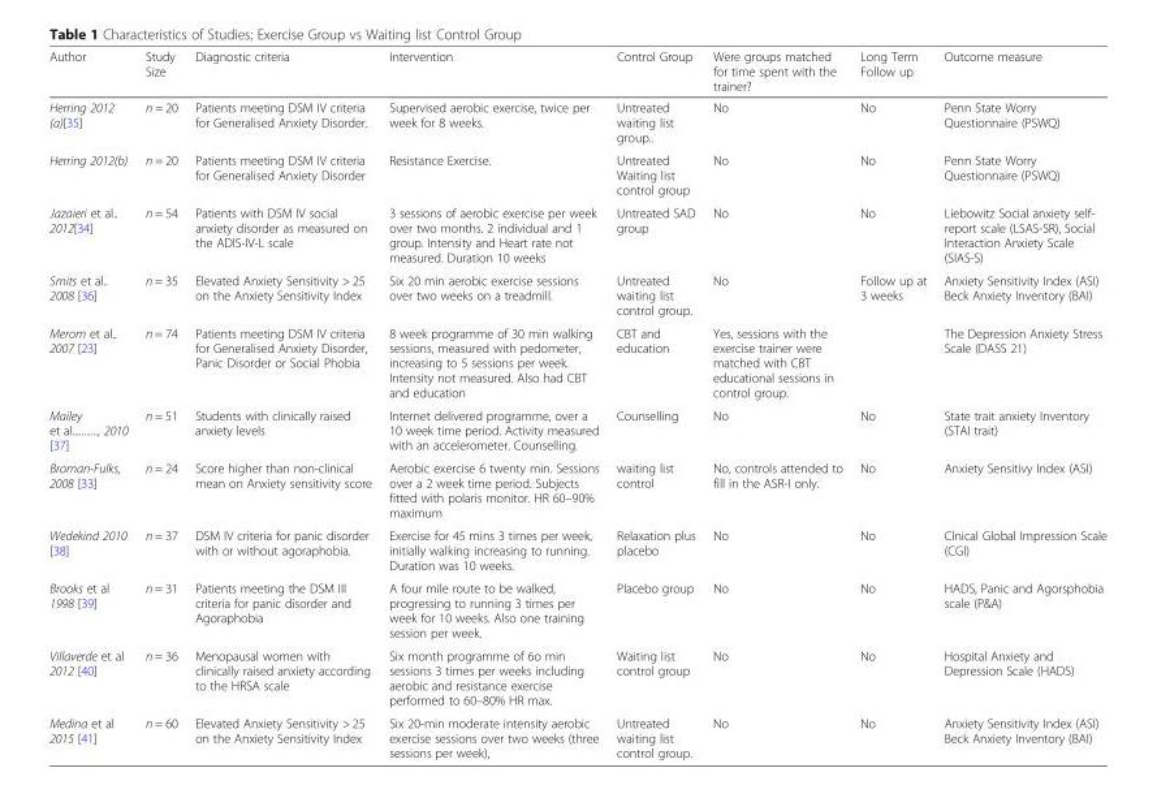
<table><thead><tr><td>Author</td><td>Study Size</td><td>Diagnostic criteria</td><td>Intervention</td><td>Control Group</td><td>Were groups matched for time spent with the trainer?</td><td>Long Term Follow up</td><td>Outcome measure</td></tr></thead><tbody><tr><td>Herring 2012 (a)[35]</td><td>n = 20</td><td>Patients meeting DSM IV criteria for Generalised Anxiety Disorder.</td><td>Supervised aerobic exercise, twice per week for 8 weeks.</td><td>Untreated waiting list group..</td><td>No</td><td>No</td><td>Penn State Worry Questionnaire (PSWQ)</td></tr><tr><td>Herring 2012(b)</td><td>n = 20</td><td>Patients meeting DSM IV criteria for Generalised Anxiety Disorder</td><td>Resistance Exercise.</td><td>Untreated Waiting list control group</td><td>No</td><td>No</td><td>Penn State Worry Questionnaire (PSWQ)</td></tr><tr><td>Jazaieri et al.. 2012[34]</td><td>n = 54</td><td>Patients with DSM IV social anxiety disorder as measured on the ADIS-IV-L scale</td><td>3 sessions of aerobic exercise per week over two months. 2 individual and 1 group. Intensity and Heart rate not measured. Duration 10 weeks</td><td>Untreated SAD group</td><td>No</td><td>No</td><td>Liebowitz Social anxiety self- report scale (LSAS-SR), Social Interaction Anxiety Scale (SIAS-S)</td></tr><tr><td>Smits et al.. 2008 [36]</td><td>n = 35</td><td>Elevated Anxiety Sensitivity &gt; 25 on the Anxiety Sensitivity Index</td><td>Six 20 min aerobic exercise sessions over two weeks on a treadmill.</td><td>Untreated waiting list control group.</td><td>No</td><td>Follow up at 3 weeks</td><td>Anxiety Sensitivity Index (ASI) Beck Anxiety Inventory (BAI)</td></tr><tr><td>Merom et al.. 2007 [23]</td><td>n = 74</td><td>Patients meeting DSM IV criteria for Generalised Anxiety Disorder, Panic Disorder or Social Phobia</td><td>8 week programme of 30 min walking sessions, measured with pedometer, increasing to 5 sessions per week. Intensity not measured. Also had CBT and education</td><td>CBT and education</td><td>Yes, sessions with the exercise trainer were matched with CBT educational sessions in control group.</td><td></td><td>The Depression Anxiety Stress Scale (DASS 21)</td></tr><tr><td>Mailey et al..........., 2010 [37]</td><td>n = 51</td><td>Students with clinically raised anxiety levels</td><td>Internet delivered programme, over a 10 week time period. Activity measured with an accelerometer. Counselling.</td><td>Counselling</td><td>No</td><td>No</td><td>State trait anxiety Inventory (STAI trait)</td></tr><tr><td>Broman-Fulks, 2008 [33]</td><td>n = 24</td><td>Score higher than non-clinical mean on Anxiety sensitivity score</td><td>Aerobic exercise 6 twenty min. Sessions over a 2 week time period. Subjects fitted with polaris monitor. HR 60–90% maximum</td><td>waiting list control</td><td>No, controls attended to fill in the ASR-I only.</td><td>No</td><td>Anxiety Sensitivy Index (ASI)</td></tr><tr><td>Wedekind 2010 [38]</td><td>n = 37</td><td>DSM IV criteria for panic disorder with or without agoraphobia.</td><td>Exercise for 45 mins 3 times per week, initially walking increasing to running. Duration was 10 weeks.</td><td>Relaxation plus placebo</td><td>No</td><td>No</td><td>Clnical Global Impression Scale (CGI)</td></tr><tr><td>Brooks et al 1998 [39]</td><td>n = 31</td><td>Patients meeting the DSM III criteria for panic disorder and Agoraphobia</td><td>A four mile route to be walked, progressing to running 3 times per week for 10 weeks. Also one training session per week.</td><td>Placebo group</td><td>No</td><td>No</td><td>HADS, Panic and Agorsphobia scale (P&amp;A)</td></tr><tr><td>Villaverde et al 2012 [40]</td><td>n = 36</td><td>Menopausal women with clinically raised anxiety according to the HRSA scale</td><td>Six month programme of 6o min sessions 3 times per weeks including aerobic and resistance exercise performed to 60–80% HR max.</td><td>Waiting list control group</td><td>No</td><td>No</td><td>Hospital Anxiety and Depression Scale (HADS)</td></tr><tr><td>Medina et al 2015 [41]</td><td>n = 60</td><td>Elevated Anxiety Sensitivity &gt; 25 on the Anxiety Sensitivity Index</td><td>Six 20-min moderate intensity aerobic exercise sessions over two weeks (three sessions per week),</td><td>Untreated waiting list control group.</td><td>No</td><td>No</td><td>Anxiety Sensitivity Index (ASI) Beck Anxiety Inventory (BAI)</td></tr></tbody></table>